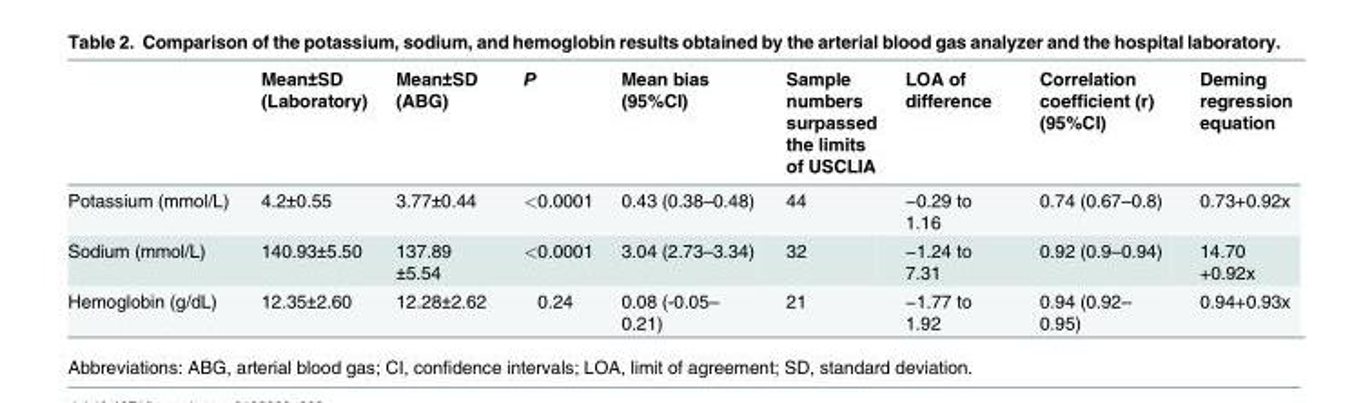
<table><thead><tr><td></td><td>Mean±SD (Laboratory)</td><td>Mean±SD (ABG)</td><td>P</td><td>Mean bias (95%CI)</td><td>Sample numbers surpassed the limits of USCLIA</td><td>LOA of difference</td><td>Correlation coefficient (r) (95%CI)</td><td>Deming regression equation</td></tr></thead><tbody><tr><td>Potassium (mmol/L)</td><td>4.2±0.55</td><td>3.77±0.44</td><td>&lt;0.0001</td><td>0.43 (0.38–0.48)</td><td>44</td><td>−0.29 to 1.16</td><td>0.74 (0.67–0.8)</td><td>0.73+0.92x</td></tr><tr><td>Sodium (mmol/L)</td><td>140.93±5.50</td><td>137.89 ±5.54</td><td>&lt;0.0001</td><td>3.04 (2.73–3.34)</td><td>32</td><td>−1.24 to 7.31</td><td>0.92 (0.9–0.94)</td><td>14.70 +0.92x</td></tr><tr><td>Hemoglobin (g/dL)</td><td>12.35±2.60</td><td>12.28±2.62</td><td>0.24</td><td>0.08 (-0.05– 0.21)</td><td>21</td><td>−1.77 to 1.92</td><td>0.94 (0.92– 0.95)</td><td>0.94+0.93x</td></tr></tbody></table>